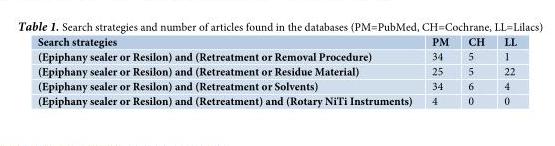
<table><thead><tr><td>Search strategies</td><td>PM</td><td>CH</td><td>LL</td></tr></thead><tbody><tr><td>(Epiphany sealer or Resilon) and (Retreatment or Removal Procedure)</td><td>34</td><td>5</td><td>1</td></tr><tr><td>(Epiphany sealer or Resilon) and (Retreatment or Residue Material)</td><td>25</td><td>5</td><td>22</td></tr><tr><td>(Epiphany sealer or Resilon) and (Retreatment or Solvents)</td><td>34</td><td>6</td><td>4</td></tr><tr><td>(Epiphany sealer or Resilon) and (Retreatment) and (Rotary NiTi Instruments)</td><td>4</td><td>0</td><td>0</td></tr></tbody></table>